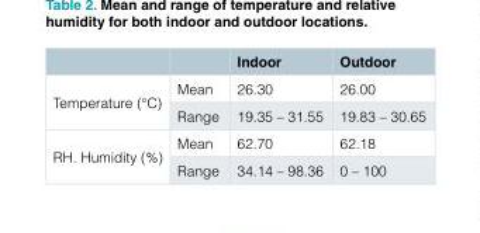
<table><thead><tr><td></td><td></td><td>Indoor</td><td>Outdoor</td></tr></thead><tbody><tr><td rowspan="2">Temperature (°C)</td><td>Mean</td><td>26.30</td><td>26.00</td></tr><tr><td>Range</td><td>19.35 – 31.55</td><td>19.83 – 30.65</td></tr><tr><td rowspan="2">RH. Humidity (%)</td><td>Mean</td><td>62.70</td><td>62.18</td></tr><tr><td>Range</td><td>34.14 – 98.36</td><td>0 – 100</td></tr></tbody></table>